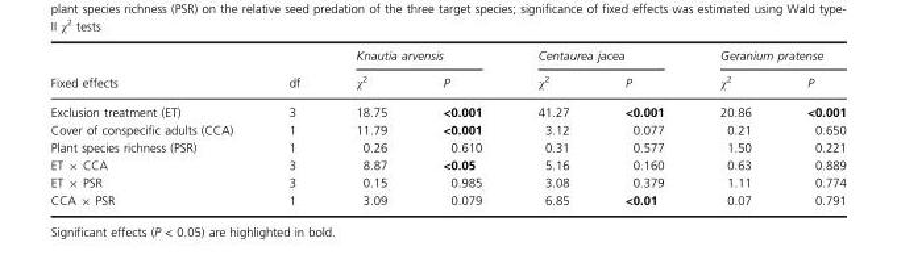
<table><thead><tr><td rowspan="2">Fixed effects</td><td rowspan="2">df</td><td colspan="2">Knautia arvensis</td><td colspan="2">Centaurea jacea</td><td colspan="2">Geranium pratense</td></tr><tr><td>χ<sup>2</sup></td><td>P</td><td>χ<sup>2</sup></td><td>P</td><td>χ<sup>2</sup></td><td>P</td></tr></thead><tbody><tr><td>Exclusion treatment (ET)</td><td>3</td><td>18.75</td><td>&lt;0.001</td><td>41.27</td><td>&lt;0.001</td><td>20.86</td><td>&lt;0.001</td></tr><tr><td>Cover of conspecific adults (CCA)</td><td>1</td><td>11.79</td><td>&lt;0.001</td><td>3.12</td><td>0.077</td><td>0.21</td><td>0.650</td></tr><tr><td>Plant species richness (PSR)</td><td>1</td><td>0.26</td><td>0.610</td><td>0.31</td><td>0.577</td><td>1.50</td><td>0.221</td></tr><tr><td>ET × CCA</td><td>3</td><td>8.87</td><td>&lt;0.05</td><td>5.16</td><td>0.160</td><td>0.63</td><td>0.889</td></tr><tr><td>ET × PSR</td><td>3</td><td>0.15</td><td>0.985</td><td>3.08</td><td>0.379</td><td>1.11</td><td>0.774</td></tr><tr><td>CCA × PSR</td><td>1</td><td>3.09</td><td>0.079</td><td>6.85</td><td>&lt;0.01</td><td>0.07</td><td>0.791</td></tr></tbody></table>